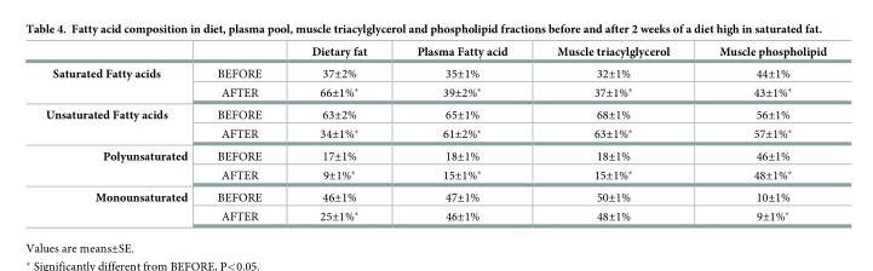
<table><thead><tr><td></td><td></td><td>Dietary fat</td><td>Plasma Fatty acid</td><td>Muscle triacylglycerol</td><td>Muscle phospholipid</td></tr></thead><tbody><tr><td rowspan="2">Saturated Fatty acids</td><td>BEFORE</td><td>37±2%</td><td>35±1%</td><td>32±1%</td><td>44±1%</td></tr><tr><td>AFTER</td><td>66±1%*</td><td>39±2%*</td><td>37±1%*</td><td>43±1%*</td></tr><tr><td rowspan="2">Unsaturated Fatty acids</td><td>BEFORE</td><td>63±2%</td><td>65±1%</td><td>68±1%</td><td>56±1%</td></tr><tr><td>AFTER</td><td>34±1%*</td><td>61±2%*</td><td>63±1%*</td><td>57±1%*</td></tr><tr><td rowspan="2">Polyunsaturated</td><td>BEFORE</td><td>17±1%</td><td>18±1%</td><td>18±1%</td><td>46±1%</td></tr><tr><td>AFTER</td><td>9±1%*</td><td>15±1%*</td><td>15±1%*</td><td>48±1%*</td></tr><tr><td rowspan="2">Monounsaturated</td><td>BEFORE</td><td>46±1%</td><td>47±1%</td><td>50±1%</td><td>10±1%</td></tr><tr><td>AFTER</td><td>25±1%*</td><td>46±1%</td><td>48±1%</td><td>9±1%*</td></tr></tbody></table>